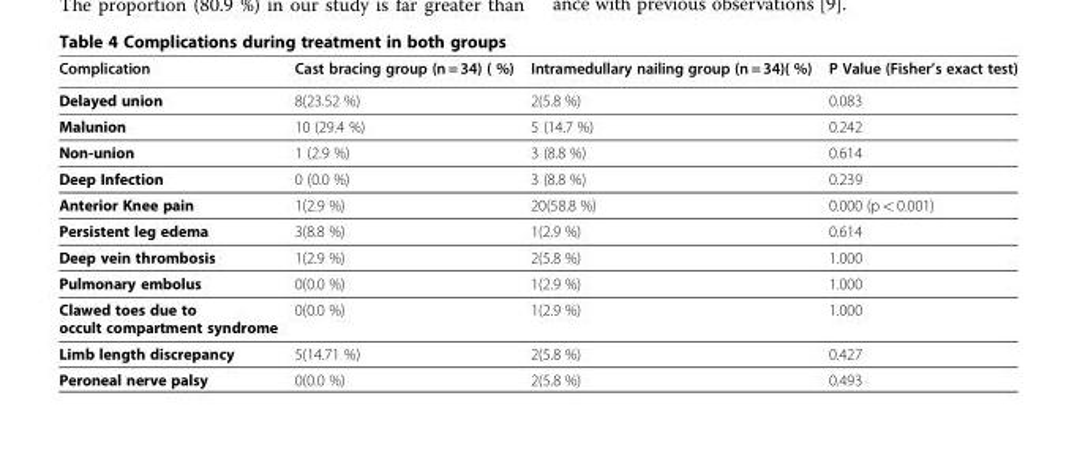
<table><thead><tr><td>Complication</td><td>Cast bracing group (n = 34) ( %)</td><td>Intramedullary nailing group (n = 34)( %)</td><td>P Value (Fisher’s exact test)</td></tr></thead><tbody><tr><td>Delayed union</td><td>8(23.52 %)</td><td>2(5.8 %)</td><td>0.083</td></tr><tr><td>Malunion</td><td>10 (29.4 %)</td><td>5 (14.7 %)</td><td>0.242</td></tr><tr><td>Non-union</td><td>1 (2.9 %)</td><td>3 (8.8 %)</td><td>0.614</td></tr><tr><td>Deep Infection</td><td>0 (0.0 %)</td><td>3 (8.8 %)</td><td>0.239</td></tr><tr><td>Anterior Knee pain</td><td>1(2.9 %)</td><td>20(58.8 %)</td><td>0.000 (p &lt; 0.001)</td></tr><tr><td>Persistent leg edema</td><td>3(8.8 %)</td><td>1(2.9 %)</td><td>0.614</td></tr><tr><td>Deep vein thrombosis</td><td>1(2.9 %)</td><td>2(5.8 %)</td><td>1.000</td></tr><tr><td>Pulmonary embolus</td><td>0(0.0 %)</td><td>1(2.9 %)</td><td>1.000</td></tr><tr><td>Clawed toes due to occult compartment syndrome</td><td>0(0.0 %)</td><td>1(2.9 %)</td><td>1.000</td></tr><tr><td>Limb length discrepancy</td><td>5(14.71 %)</td><td>2(5.8 %)</td><td>0.427</td></tr><tr><td>Peroneal nerve palsy</td><td>0(0.0 %)</td><td>2(5.8 %)</td><td>0.493</td></tr></tbody></table>